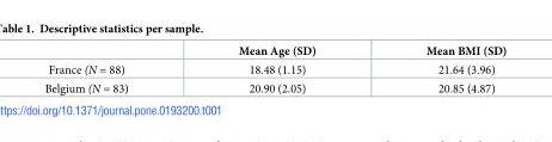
<table><thead><tr><td></td><td>Mean Age (SD)</td><td>Mean BMI (SD)</td></tr></thead><tbody><tr><td>France (N = 88)</td><td>18.48 (1.15)</td><td>21.64 (3.96)</td></tr><tr><td>Belgium (N = 83)</td><td>20.90 (2.05)</td><td>20.85 (4.87)</td></tr></tbody></table>